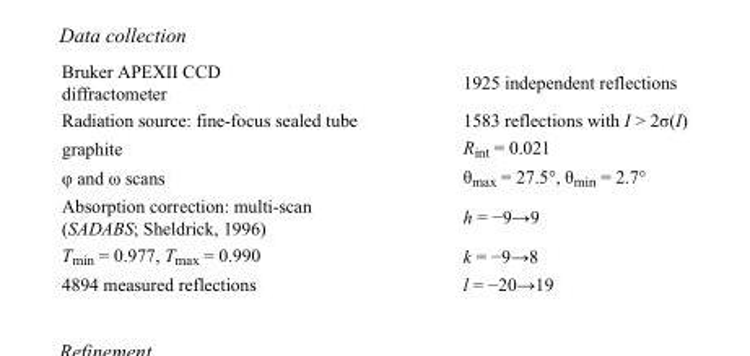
<table><tbody><tr><td>Bruker APEXII CCD diffractometer</td><td>1925 independent reflections</td></tr><tr><td>Radiation source: fine-focus sealed tube</td><td>1583 reflections with I &gt; 2σ(I)</td></tr><tr><td>graphite</td><td>R<sub>int</sub> = 0.021</td></tr><tr><td>φ and ω scans</td><td>θ<sub>max</sub> = 27.5°, θ<sub>min</sub> = 2.7°</td></tr><tr><td>Absorption correction: multi-scan (SADABS; Sheldrick, 1996)</td><td>h = −9→9</td></tr><tr><td>T<sub>min</sub> = 0.977, T<sub>max</sub> = 0.990</td><td>k = −9→8</td></tr><tr><td>4894 measured reflections</td><td>l = −20→19</td></tr></tbody></table>